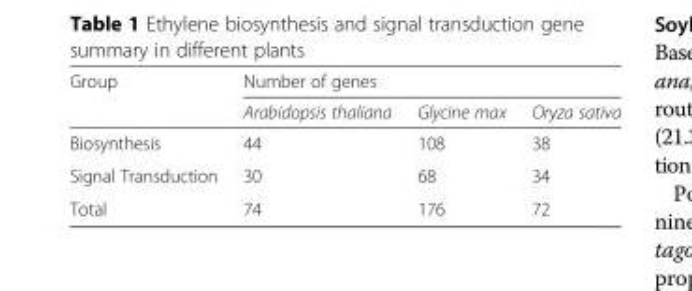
<table><thead><tr><td rowspan="2">Group</td><td colspan="3">Number of genes</td></tr><tr><td>Arabidopsis thaliana</td><td>Glycine max</td><td>Oryza sativa</td></tr></thead><tbody><tr><td>Biosynthesis</td><td>44</td><td>108</td><td>38</td></tr><tr><td>Signal Transduction</td><td>30</td><td>68</td><td>34</td></tr><tr><td>Total</td><td>74</td><td>176</td><td>72</td></tr></tbody></table>